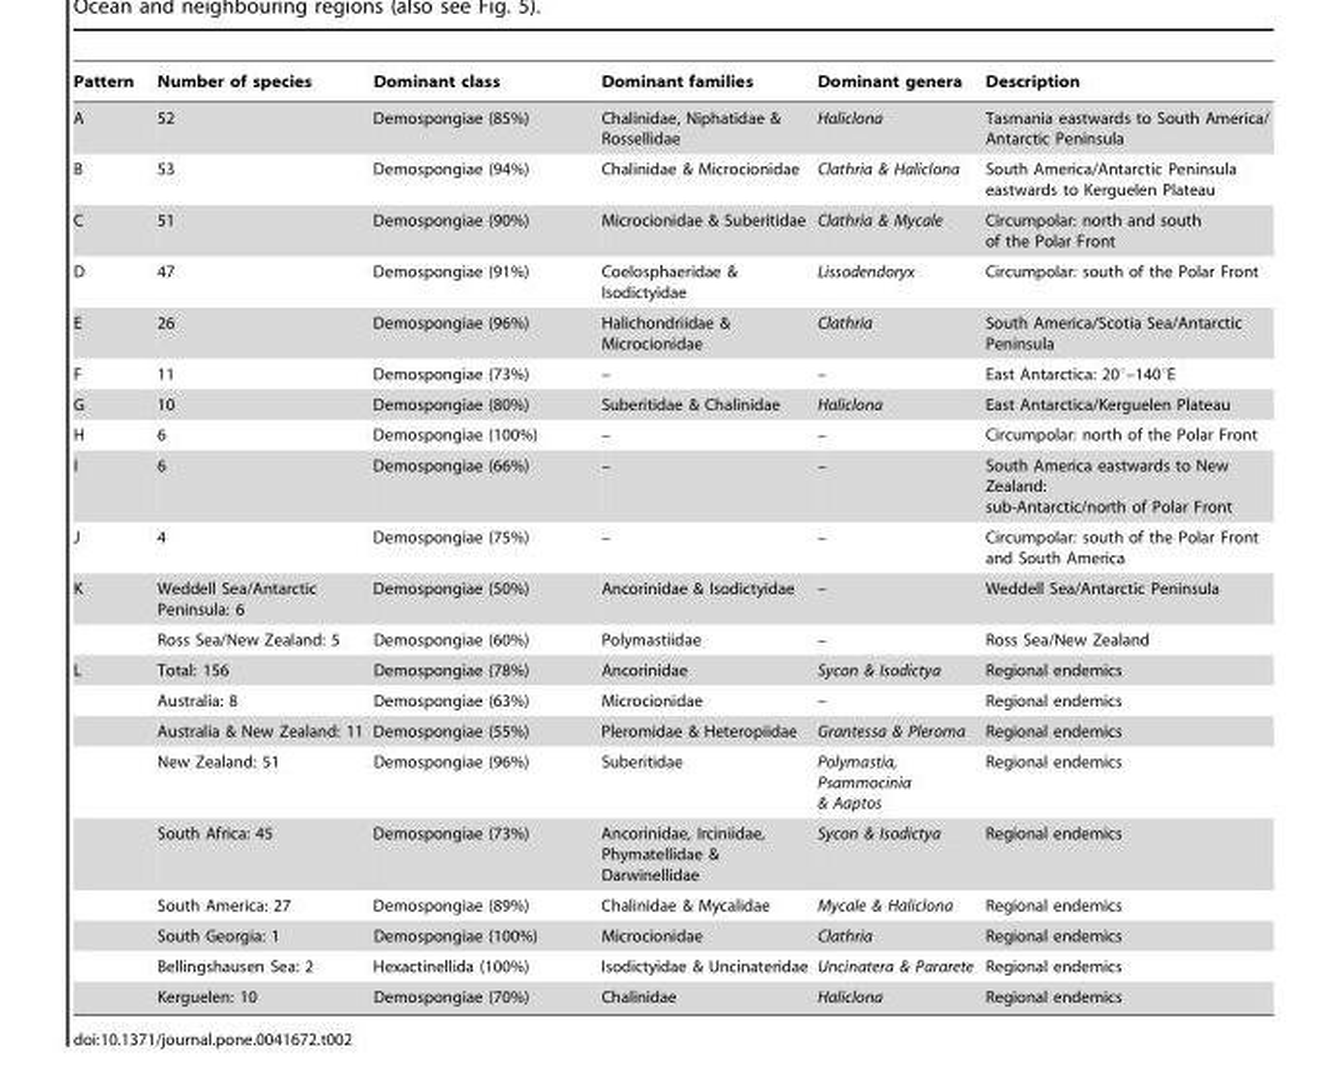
<table><thead><tr><td>Pattern</td><td>Number of species</td><td>Dominant class</td><td>Dominant families</td><td>Dominant genera</td><td>Description</td></tr></thead><tbody><tr><td>A</td><td>52</td><td>Demospongiae (85%)</td><td>Chalinidae, Niphatidae &amp; Rossellidae</td><td>Haliclona</td><td>Tasmania eastwards to South America/ Antarctic Peninsula</td></tr><tr><td>B</td><td>53</td><td>Demospongiae (94%)</td><td>Chalinidae &amp; Microcionidae</td><td>Clathria &amp; Haliclona</td><td>South America/Antarctic Peninsula eastwards to Kerguelen Plateau</td></tr><tr><td>C</td><td>51</td><td>Demospongiae (90%)</td><td>Microcionidae &amp; Suberitidae</td><td>Clathria &amp; Mycale</td><td>Circumpolar: north and south of the Polar Front</td></tr><tr><td>D</td><td>47</td><td>Demospongiae (91%)</td><td>Coelosphaeridae &amp; Isodictyidae</td><td>Lissodendoryx</td><td>Circumpolar: south of the Polar Front</td></tr><tr><td>E</td><td>26</td><td>Demospongiae (96%)</td><td>Halichondriidae &amp; Microcionidae</td><td>Clathria</td><td>South America/Scotia Sea/Antarctic Peninsula</td></tr><tr><td>F</td><td>11</td><td>Demospongiae (73%)</td><td>–</td><td>–</td><td>East Antarctica: 20°–140°E</td></tr><tr><td>G</td><td>10</td><td>Demospongiae (80%)</td><td>Suberitidae &amp; Chalinidae</td><td>Haliclona</td><td>East Antarctica/Kerguelen Plateau</td></tr><tr><td>H</td><td>6</td><td>Demospongiae (100%)</td><td>–</td><td>–</td><td>Circumpolar: north of the Polar Front</td></tr><tr><td>I</td><td>6</td><td>Demospongiae (66%)</td><td>–</td><td>–</td><td>South America eastwards to New Zealand: sub-Antarctic/north of Polar Front</td></tr><tr><td>J</td><td>4</td><td>Demospongiae (75%)</td><td>–</td><td>–</td><td>Circumpolar: south of the Polar Front and South America</td></tr><tr><td rowspan="2">K</td><td>Weddell Sea/Antarctic Peninsula: 6</td><td>Demospongiae (50%)</td><td>Ancorinidae &amp; Isodictyidae</td><td>–</td><td>Weddell Sea/Antarctic Peninsula</td></tr><tr><td>Ross Sea/New Zealand: 5</td><td>Demospongiae (60%)</td><td>Polymastiidae</td><td>–</td><td>Ross Sea/New Zealand</td></tr><tr><td rowspan="9">L</td><td>Total: 156</td><td>Demospongiae (78%)</td><td>Ancorinidae</td><td>Sycon &amp; Isodictya</td><td>Regional endemics</td></tr><tr><td>Australia: 8</td><td>Demospongiae (63%)</td><td>Microcionidae</td><td>–</td><td>Regional endemics</td></tr><tr><td>Australia &amp; New Zealand: 11</td><td>Demospongiae (55%)</td><td>Pleromidae &amp; Heteropiidae</td><td>Grantessa &amp; Pleroma</td><td>Regional endemics</td></tr><tr><td>New Zealand: 51</td><td>Demospongiae (96%)</td><td>Suberitidae</td><td>Polymastia, Psammocinia &amp; Aaptos</td><td>Regional endemics</td></tr><tr><td>South Africa: 45</td><td>Demospongiae (73%)</td><td>Ancorinidae, Irciniidae, Phymatellidae &amp; Darwinellidae</td><td>Sycon &amp; Isodictya</td><td>Regional endemics</td></tr><tr><td>South America: 27</td><td>Demospongiae (89%)</td><td>Chalinidae &amp; Mycalidae</td><td>Mycale &amp; Haliclona</td><td>Regional endemics</td></tr><tr><td>South Georgia: 1</td><td>Demospongiae (100%)</td><td>Microcionidae</td><td>Clathria</td><td>Regional endemics</td></tr><tr><td>Bellingshausen Sea: 2</td><td>Hexactinellida (100%)</td><td>Isodictyidae &amp; Uncinateridae</td><td>Uncinatera &amp; Pararete</td><td>Regional endemics</td></tr><tr><td>Kerguelen: 10</td><td>Demospongiae (70%)</td><td>Chalinidae</td><td>Haliclona</td><td>Regional endemics</td></tr></tbody></table>